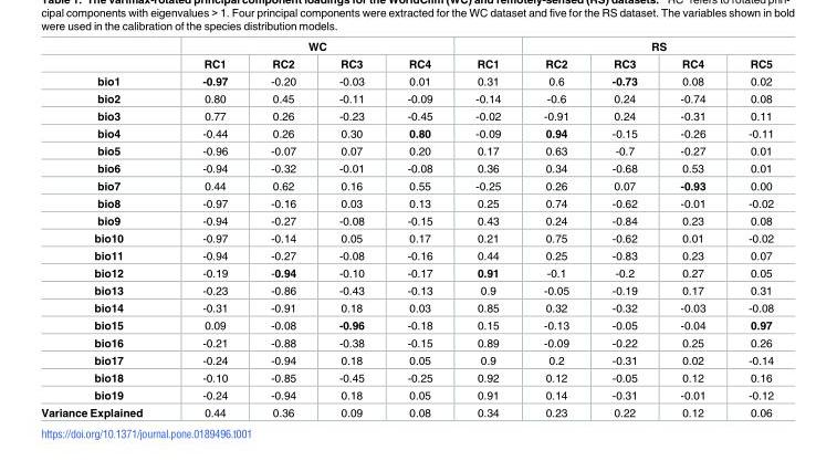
<table><thead><tr><td rowspan="2"></td><td colspan="4">WC</td><td rowspan="2">RC1</td><td colspan="4">RS</td></tr><tr><td>RC1</td><td>RC2</td><td>RC3</td><td>RC4</td><td>RC2</td><td>RC3</td><td>RC4</td><td>RC5</td></tr></thead><tbody><tr><td>bio1</td><td>-0.97</td><td>-0.20</td><td>-0.03</td><td>0.01</td><td>0.31</td><td>0.6</td><td>-0.73</td><td>0.08</td><td>0.02</td></tr><tr><td>bio2</td><td>0.80</td><td>0.45</td><td>-0.11</td><td>-0.09</td><td>-0.14</td><td>-0.6</td><td>0.24</td><td>-0.74</td><td>0.08</td></tr><tr><td>bio3</td><td>0.77</td><td>0.26</td><td>-0.23</td><td>-0.45</td><td>-0.02</td><td>-0.91</td><td>0.24</td><td>-0.31</td><td>0.11</td></tr><tr><td>bio4</td><td>-0.44</td><td>0.26</td><td>0.30</td><td>0.80</td><td>-0.09</td><td>0.94</td><td>-0.15</td><td>-0.26</td><td>-0.11</td></tr><tr><td>bio5</td><td>-0.96</td><td>-0.07</td><td>0.07</td><td>0.20</td><td>0.17</td><td>0.63</td><td>-0.7</td><td>-0.27</td><td>0.01</td></tr><tr><td>bio6</td><td>-0.94</td><td>-0.32</td><td>-0.01</td><td>-0.08</td><td>0.36</td><td>0.34</td><td>-0.68</td><td>0.53</td><td>0.01</td></tr><tr><td>bio7</td><td>0.44</td><td>0.62</td><td>0.16</td><td>0.55</td><td>-0.25</td><td>0.26</td><td>0.07</td><td>-0.93</td><td>0.00</td></tr><tr><td>bio8</td><td>-0.97</td><td>-0.16</td><td>0.03</td><td>0.13</td><td>0.25</td><td>0.74</td><td>-0.62</td><td>-0.01</td><td>-0.02</td></tr><tr><td>bio9</td><td>-0.94</td><td>-0.27</td><td>-0.08</td><td>-0.15</td><td>0.43</td><td>0.24</td><td>-0.84</td><td>0.23</td><td>0.08</td></tr><tr><td>bio10</td><td>-0.97</td><td>-0.14</td><td>0.05</td><td>0.17</td><td>0.21</td><td>0.75</td><td>-0.62</td><td>0.01</td><td>-0.02</td></tr><tr><td>bio11</td><td>-0.94</td><td>-0.27</td><td>-0.08</td><td>-0.16</td><td>0.44</td><td>0.25</td><td>-0.83</td><td>0.23</td><td>0.07</td></tr><tr><td>bio12</td><td>-0.19</td><td>-0.94</td><td>-0.10</td><td>-0.17</td><td>0.91</td><td>-0.1</td><td>-0.2</td><td>0.27</td><td>0.05</td></tr><tr><td>bio13</td><td>-0.23</td><td>-0.86</td><td>-0.43</td><td>-0.13</td><td>0.9</td><td>-0.05</td><td>-0.19</td><td>0.17</td><td>0.31</td></tr><tr><td>bio14</td><td>-0.31</td><td>-0.91</td><td>0.18</td><td>0.03</td><td>0.85</td><td>0.32</td><td>-0.32</td><td>-0.03</td><td>-0.08</td></tr><tr><td>bio15</td><td>0.09</td><td>-0.08</td><td>-0.96</td><td>-0.18</td><td>0.15</td><td>-0.13</td><td>-0.05</td><td>-0.04</td><td>0.97</td></tr><tr><td>bio16</td><td>-0.21</td><td>-0.88</td><td>-0.38</td><td>-0.15</td><td>0.89</td><td>-0.09</td><td>-0.22</td><td>0.25</td><td>0.26</td></tr><tr><td>bio17</td><td>-0.24</td><td>-0.94</td><td>0.18</td><td>0.05</td><td>0.9</td><td>0.2</td><td>-0.31</td><td>0.02</td><td>-0.14</td></tr><tr><td>bio18</td><td>-0.10</td><td>-0.85</td><td>-0.45</td><td>-0.25</td><td>0.92</td><td>0.12</td><td>-0.05</td><td>0.12</td><td>0.16</td></tr><tr><td>bio19</td><td>-0.24</td><td>-0.94</td><td>0.18</td><td>0.05</td><td>0.91</td><td>0.14</td><td>-0.31</td><td>-0.01</td><td>-0.12</td></tr><tr><td>Variance Explained</td><td>0.44</td><td>0.36</td><td>0.09</td><td>0.08</td><td>0.34</td><td>0.23</td><td>0.22</td><td>0.12</td><td>0.06</td></tr></tbody></table>